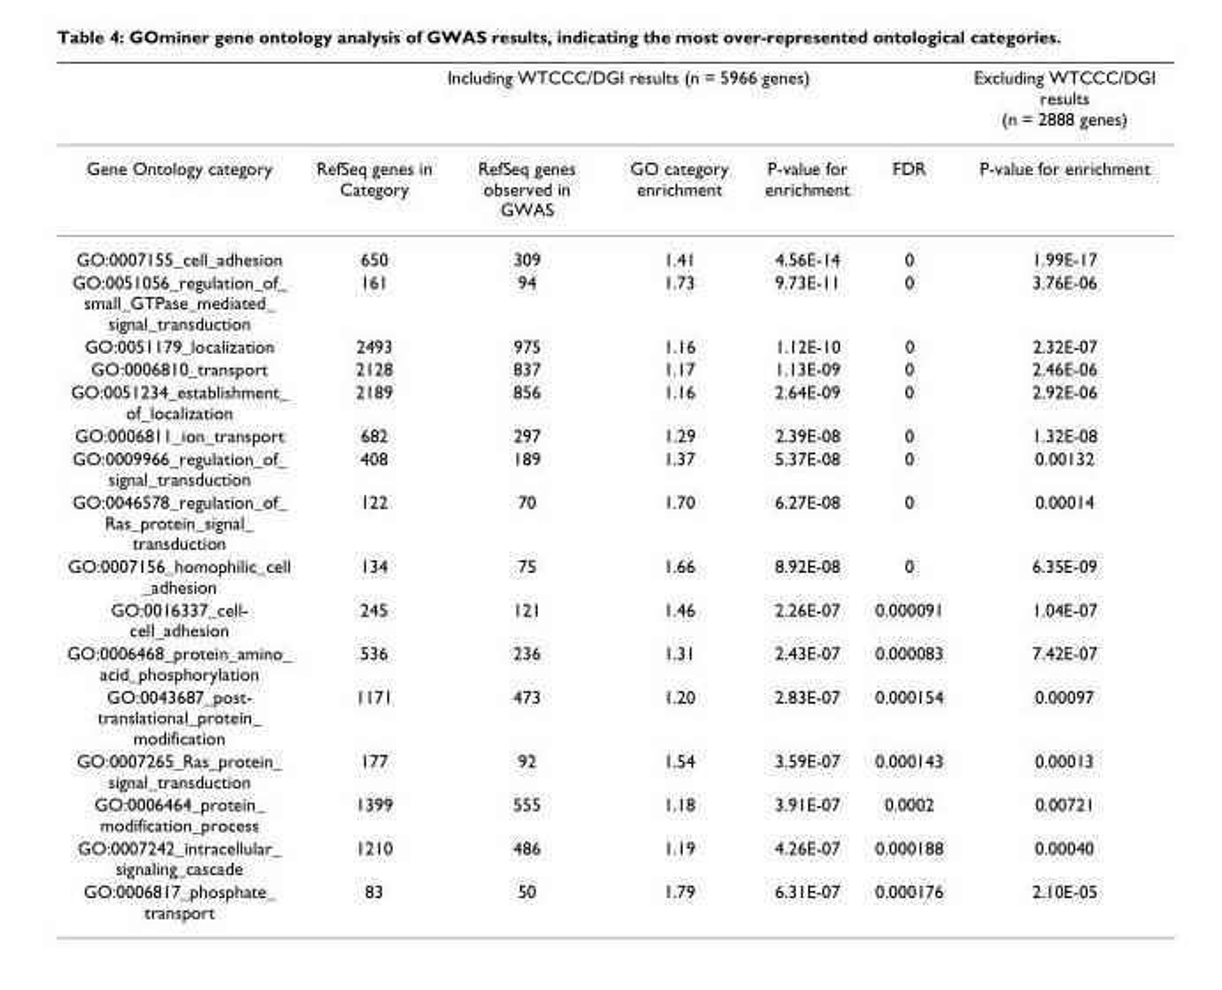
<table><thead><tr><td rowspan="2">Gene Ontology category</td><td colspan="5">Including WTCCC/DGI results (n = 5966 genes)</td><td rowspan="2">Excluding WTCCC/DGI results (n = 2888 genes) P-value for enrichment</td></tr><tr><td>RefSeq genes in Category</td><td>RefSeq genes observed in GWAS</td><td>GO category enrichment</td><td>P-value for enrichment</td><td>FDR</td></tr></thead><tbody><tr><td>GO:0007155_cell_adhesion</td><td>650</td><td>309</td><td>1.41</td><td>4.56E-14</td><td>0</td><td>1.99E-17</td></tr><tr><td>GO:0051056_regulation_of_ small_GTPase_mediated_ signal_transduction</td><td>161</td><td>94</td><td>1.73</td><td>9.73E-11</td><td>0</td><td>3.76E-06</td></tr><tr><td>GO:0051179_localization</td><td>2493</td><td>975</td><td>1.16</td><td>1.12E-10</td><td>0</td><td>2.32E-07</td></tr><tr><td>GO:0006810_transport</td><td>2128</td><td>837</td><td>1.17</td><td>1.13E-09</td><td>0</td><td>2.46E-06</td></tr><tr><td>GO:0051234_establishment_ of_localization</td><td>2189</td><td>856</td><td>1.16</td><td>2.64E-09</td><td>0</td><td>2.92E-06</td></tr><tr><td>GO:0006811_ion_transport</td><td>682</td><td>297</td><td>1.29</td><td>2.39E-08</td><td>0</td><td>1.32E-08</td></tr><tr><td>GO:0009966_regulation_of_ signal_transduction</td><td>408</td><td>189</td><td>1.37</td><td>5.37E-08</td><td>0</td><td>0.00132</td></tr><tr><td>GO:0046578_regulation_of_ Ras_protein_signal_ transduction</td><td>122</td><td>70</td><td>1.70</td><td>6.27E-08</td><td>0</td><td>0.00014</td></tr><tr><td>GO:0007156_homophilic_cell _adhesion</td><td>134</td><td>75</td><td>1.66</td><td>8.92E-08</td><td>0</td><td>6.35E-09</td></tr><tr><td>GO:0016337_cell- cell_adhesion</td><td>245</td><td>121</td><td>1.46</td><td>2.26E-07</td><td>0.000091</td><td>1.04E-07</td></tr><tr><td>GO:0006468_protein_amino_ acid_phosphorylation</td><td>536</td><td>236</td><td>1.31</td><td>2.43E-07</td><td>0.000083</td><td>7.42E-07</td></tr><tr><td>GO:0043687_post- translational_protein_ modification</td><td>1171</td><td>473</td><td>1.20</td><td>2.83E-07</td><td>0.000154</td><td>0.00097</td></tr><tr><td>GO:0007265_Ras_protein_ signal_transduction</td><td>177</td><td>92</td><td>1.54</td><td>3.59E-07</td><td>0.000143</td><td>0.00013</td></tr><tr><td>GO:0006464_protein_ modification_process</td><td>1399</td><td>555</td><td>1.18</td><td>3.91E-07</td><td>0.0002</td><td>0.00721</td></tr><tr><td>GO:0007242_intracellular_ signaling_cascade</td><td>1210</td><td>486</td><td>1.19</td><td>4.26E-07</td><td>0.000188</td><td>0.00040</td></tr><tr><td>GO:0006817_phosphate_ transport</td><td>83</td><td>50</td><td>1.79</td><td>6.31E-07</td><td>0.000176</td><td>2.10E-05</td></tr></tbody></table>